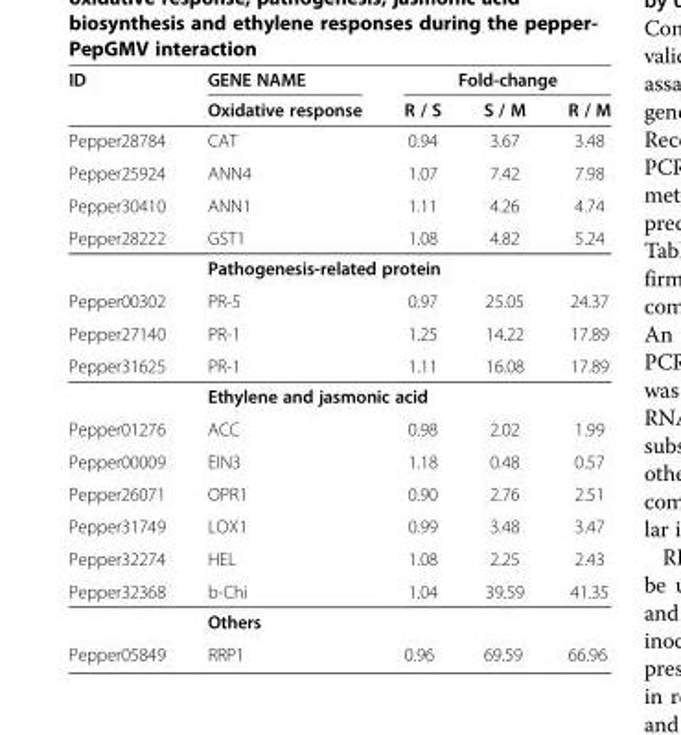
<table><thead><tr><td rowspan="2">ID</td><td rowspan="2">GENE NAME Oxidative response</td><td colspan="3">Fold-change</td></tr><tr><td>R / S</td><td>S / M</td><td>R / M</td></tr></thead><tbody><tr><td>Pepper28784</td><td>CAT</td><td>0.94</td><td>3.67</td><td>3.48</td></tr><tr><td>Pepper25924</td><td>ANN4</td><td>1.07</td><td>7.42</td><td>7.98</td></tr><tr><td>Pepper30410</td><td>ANN1</td><td>1.11</td><td>4.26</td><td>4.74</td></tr><tr><td rowspan="2">Pepper28222</td><td>GST1</td><td>1.08</td><td>4.82</td><td>5.24</td></tr><tr><td colspan="4">Pathogenesis-related protein</td></tr><tr><td>Pepper00302</td><td>PR-5</td><td>0.97</td><td>25.05</td><td>24.37</td></tr><tr><td>Pepper27140</td><td>PR-1</td><td>1.25</td><td>14.22</td><td>17.89</td></tr><tr><td rowspan="2">Pepper31625</td><td>PR-1</td><td>1.11</td><td>16.08</td><td>17.89</td></tr><tr><td colspan="4">Ethylene and jasmonic acid</td></tr><tr><td>Pepper01276</td><td>ACC</td><td>0.98</td><td>2.02</td><td>1.99</td></tr><tr><td>Pepper00009</td><td>EIN3</td><td>1.18</td><td>0.48</td><td>0.57</td></tr><tr><td>Pepper26071</td><td>OPR1</td><td>0.90</td><td>2.76</td><td>2.51</td></tr><tr><td>Pepper31749</td><td>LOX1</td><td>0.99</td><td>3.48</td><td>3.47</td></tr><tr><td>Pepper32274</td><td>HEL</td><td>1.08</td><td>2.25</td><td>2.43</td></tr><tr><td rowspan="2">Pepper32368</td><td>b-Chi</td><td>1.04</td><td>39.59</td><td>41.35</td></tr><tr><td colspan="4">Others</td></tr><tr><td>Pepper05849</td><td>RRP1</td><td>0.96</td><td>69.59</td><td>66.96</td></tr></tbody></table>